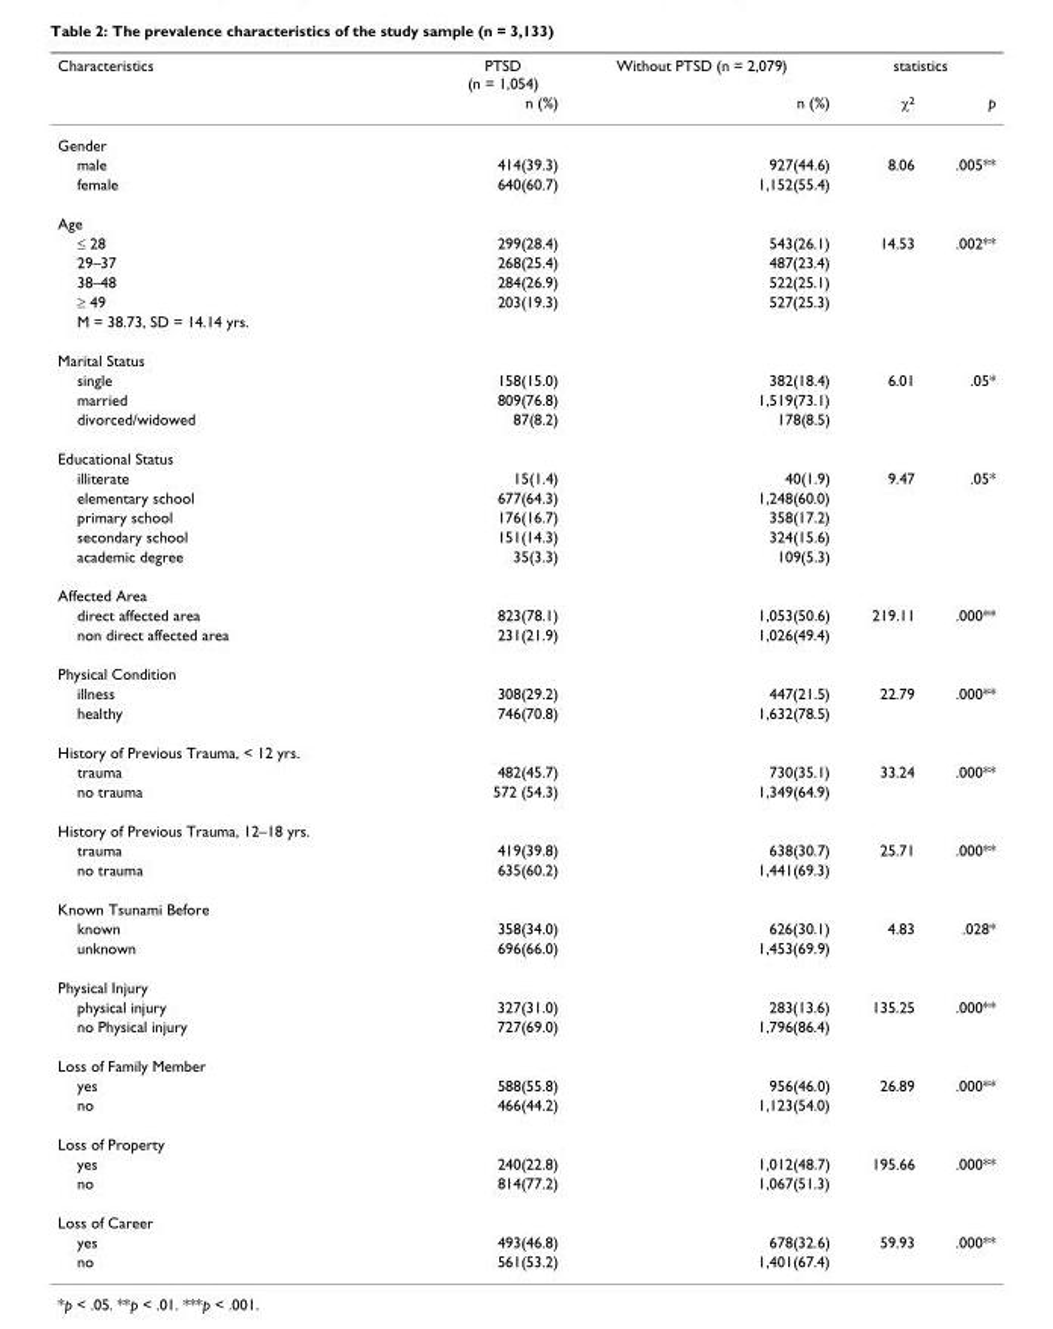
<table><thead><tr><td rowspan="2">Characteristics</td><td rowspan="2">PTSD (n = 1,054) n (%)</td><td rowspan="2">Without PTSD (n = 2,079) n (%)</td><td colspan="2">statistics</td></tr><tr><td>χ<sup>2</sup></td><td>p</td></tr></thead><tbody><tr><td colspan="5">Gender</td></tr><tr><td>male</td><td>414(39.3)</td><td>927(44.6)</td><td>8.06</td><td>.005**</td></tr><tr><td>female</td><td>640(60.7)</td><td>1,152(55.4)</td><td></td><td></td></tr><tr><td colspan="5">Age</td></tr><tr><td>≤ 28</td><td>299(28.4)</td><td>543(26.1)</td><td>14.53</td><td>.002**</td></tr><tr><td>29–37</td><td>268(25.4)</td><td>487(23.4)</td><td></td><td></td></tr><tr><td>38–48</td><td>284(26.9)</td><td>522(25.1)</td><td></td><td></td></tr><tr><td>≥ 49</td><td>203(19.3)</td><td>527(25.3)</td><td></td><td></td></tr><tr><td colspan="5">M = 38.73, SD = 14.14 yrs.</td></tr><tr><td colspan="5">Marital Status</td></tr><tr><td>single</td><td>158(15.0)</td><td>382(18.4)</td><td>6.01</td><td>.05*</td></tr><tr><td>married</td><td>809(76.8)</td><td>1,519(73.1)</td><td></td><td></td></tr><tr><td>divorced/widowed</td><td>87(8.2)</td><td>178(8.5)</td><td></td><td></td></tr><tr><td colspan="5">Educational Status</td></tr><tr><td>illiterate</td><td>15(1.4)</td><td>40(1.9)</td><td>9.47</td><td>.05*</td></tr><tr><td>elementary school</td><td>677(64.3)</td><td>1,248(60.0)</td><td></td><td></td></tr><tr><td>primary school</td><td>176(16.7)</td><td>358(17.2)</td><td></td><td></td></tr><tr><td>secondary school</td><td>151(14.3)</td><td>324(15.6)</td><td></td><td></td></tr><tr><td>academic degree</td><td>35(3.3)</td><td>109(5.3)</td><td></td><td></td></tr><tr><td colspan="5">Affected Area</td></tr><tr><td>direct affected area</td><td>823(78.1)</td><td>1,053(50.6)</td><td>219.11</td><td>.000**</td></tr><tr><td>non direct affected area</td><td>231(21.9)</td><td>1,026(49.4)</td><td></td><td></td></tr><tr><td colspan="5">Physical Condition</td></tr><tr><td>illness</td><td>308(29.2)</td><td>447(21.5)</td><td>22.79</td><td>.000**</td></tr><tr><td>healthy</td><td>746(70.8)</td><td>1,632(78.5)</td><td></td><td></td></tr><tr><td colspan="5">History of Previous Trauma, &lt; 12 yrs.</td></tr><tr><td>trauma</td><td>482(45.7)</td><td>730(35.1)</td><td>33.24</td><td>.000**</td></tr><tr><td>no trauma</td><td>572 (54.3)</td><td>1,349(64.9)</td><td></td><td></td></tr><tr><td colspan="5">History of Previous Trauma, 12–18 yrs.</td></tr><tr><td>trauma</td><td>419(39.8)</td><td>638(30.7)</td><td>25.71</td><td>.000**</td></tr><tr><td>no trauma</td><td>635(60.2)</td><td>1,441(69.3)</td><td></td><td></td></tr><tr><td colspan="5">Known Tsunami Before</td></tr><tr><td>known</td><td>358(34.0)</td><td>626(30.1)</td><td>4.83</td><td>.028*</td></tr><tr><td>unknown</td><td>696(66.0)</td><td>1,453(69.9)</td><td></td><td></td></tr><tr><td colspan="5">Physical Injury</td></tr><tr><td>physical injury</td><td>327(31.0)</td><td>283(13.6)</td><td>135.25</td><td>.000**</td></tr><tr><td>no Physical injury</td><td>727(69.0)</td><td>1,796(86.4)</td><td></td><td></td></tr><tr><td colspan="5">Loss of Family Member</td></tr><tr><td>yes</td><td>588(55.8)</td><td>956(46.0)</td><td>26.89</td><td>.000**</td></tr><tr><td>no</td><td>466(44.2)</td><td>1,123(54.0)</td><td></td><td></td></tr><tr><td colspan="5">Loss of Property</td></tr><tr><td>yes</td><td>240(22.8)</td><td>1,012(48.7)</td><td>195.66</td><td>.000**</td></tr><tr><td>no</td><td>814(77.2)</td><td>1,067(51.3)</td><td></td><td></td></tr><tr><td colspan="5">Loss of Career</td></tr><tr><td>yes</td><td>493(46.8)</td><td>678(32.6)</td><td>59.93</td><td>.000**</td></tr><tr><td>no</td><td>561(53.2)</td><td>1,401(67.4)</td><td></td><td></td></tr></tbody></table>